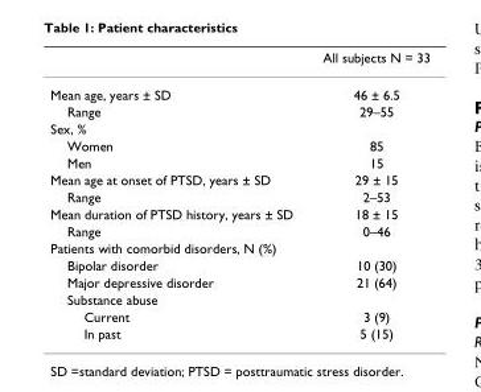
<table><thead><tr><td></td><td>All subjects N = 33</td></tr></thead><tbody><tr><td>Mean age, years ± SD</td><td>46 ± 6.5</td></tr><tr><td>Range</td><td>29–55</td></tr><tr><td colspan="2">Sex, %</td></tr><tr><td>Women</td><td>85</td></tr><tr><td>Men</td><td>15</td></tr><tr><td>Mean age at onset of PTSD, years ± SD</td><td>29 ± 15</td></tr><tr><td>Range</td><td>2–53</td></tr><tr><td>Mean duration of PTSD history, years ± SD</td><td>18 ± 15</td></tr><tr><td>Range</td><td>0–46</td></tr><tr><td colspan="2">Patients with comorbid disorders, N (%)</td></tr><tr><td>Bipolar disorder</td><td>10 (30)</td></tr><tr><td>Major depressive disorder</td><td>21 (64)</td></tr><tr><td colspan="2">Substance abuse</td></tr><tr><td>Current</td><td>3 (9)</td></tr><tr><td>In past</td><td>5 (15)</td></tr></tbody></table>